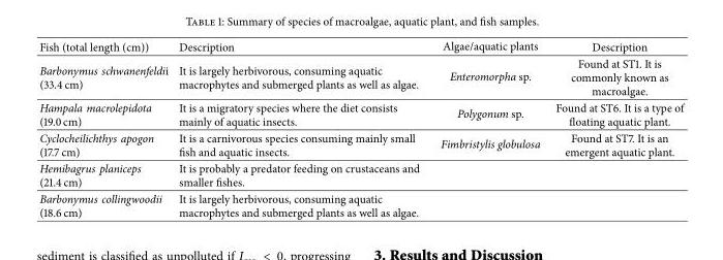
<table><thead><tr><td>Fish (total length (cm))</td><td>Description</td><td>Algae/aquatic plants</td><td>Description</td></tr></thead><tbody><tr><td>Barbonymus schwanenfeldii (33.4 cm)</td><td>It is largely herbivorous, consuming aquatic macrophytes and submerged plants as well as algae.</td><td>Enteromorpha sp.</td><td>Found at ST1. It is commonly known as macroalgae.</td></tr><tr><td>Hampala macrolepidota (19.0 cm)</td><td>It is a migratory species where the diet consists mainly of aquatic insects.</td><td>Polygonum sp.</td><td>Found at ST6. It is a type of floating aquatic plant.</td></tr><tr><td>Cyclocheilichthys apogon (17.7 cm)</td><td>It is a carnivorous species consuming mainly small fish and aquatic insects.</td><td>Fimbristylis globulosa</td><td>Found at ST7. It is an emergent aquatic plant.</td></tr><tr><td>Hemibagrus planiceps (21.4 cm)</td><td>It is probably a predator feeding on crustaceans and smaller fishes.</td><td></td><td></td></tr><tr><td>Barbonymus collingwoodii (18.6 cm)</td><td>It is largely herbivorous, consuming aquatic macrophytes and submerged plants as well as algae.</td><td></td><td></td></tr></tbody></table>